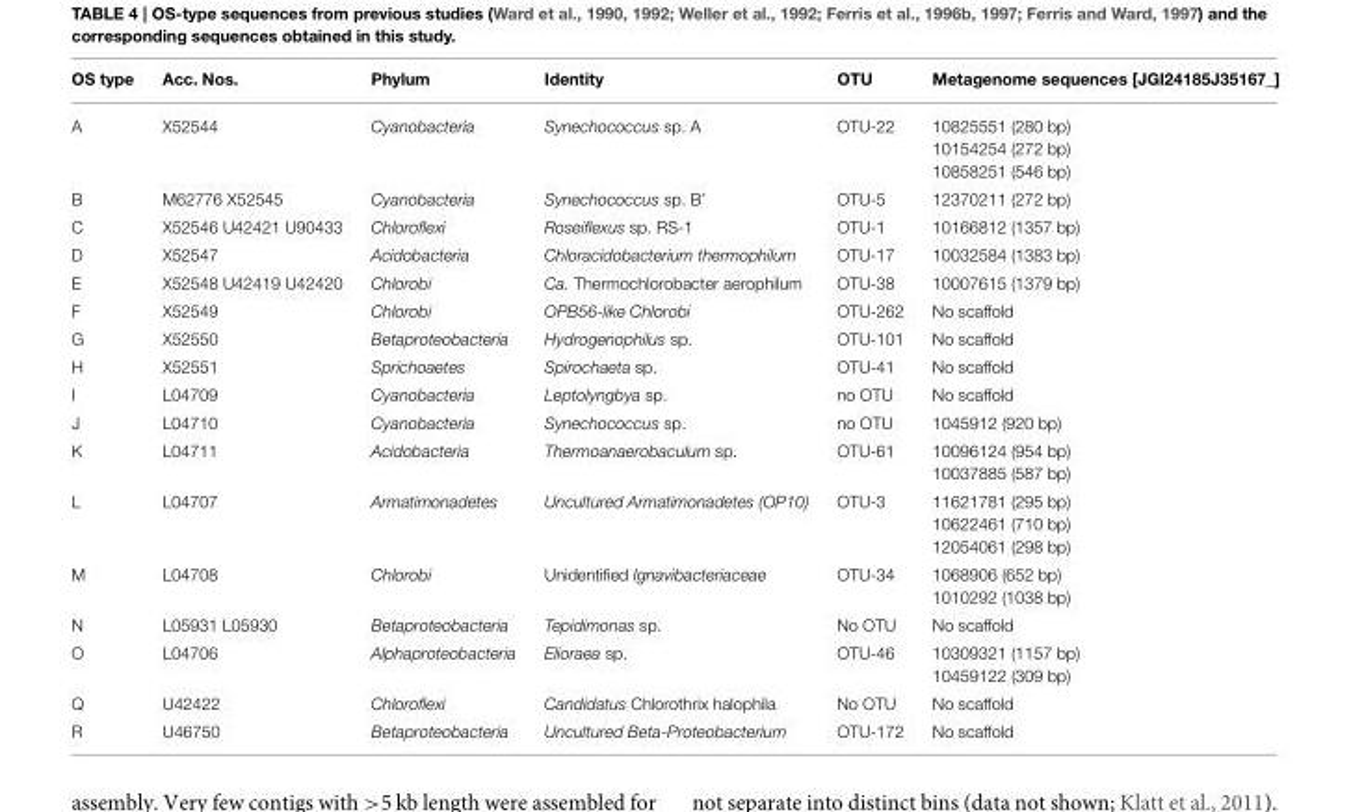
<table><thead><tr><td>OS type</td><td>Acc. Nos.</td><td>Phylum</td><td>Identity</td><td>OTU</td><td>Metagenome sequences [JGI24185J35167_]</td></tr></thead><tbody><tr><td>A</td><td>X52544</td><td>Cyanobacteria</td><td>Synechococcus sp. A</td><td>OTU-22</td><td>10825551 (280 bp) 10154254 (272 bp) 10858251 (546 bp)</td></tr><tr><td>B</td><td>M62776 X52545</td><td>Cyanobacteria</td><td>Synechococcus sp. B’</td><td>OTU-5</td><td>12370211 (272 bp)</td></tr><tr><td>C</td><td>X52546 U42421 U90433</td><td>Chloroflexi</td><td>Roseiflexus sp. RS-1</td><td>OTU-1</td><td>10166812 (1357 bp)</td></tr><tr><td>D</td><td>X52547</td><td>Acidobacteria</td><td>Chloracidobacterium thermophilum</td><td>OTU-17</td><td>10032584 (1383 bp)</td></tr><tr><td>E</td><td>X52548 U42419 U42420</td><td>Chlorobi</td><td>Ca. Thermochlorobacter aerophilum</td><td>OTU-38</td><td>10007615 (1379 bp)</td></tr><tr><td>F</td><td>X52549</td><td>Chlorobi</td><td>OPB56-like Chlorobi</td><td>OTU-262</td><td>No scaffold</td></tr><tr><td>G</td><td>X52550</td><td>Betaproteobacteria</td><td>Hydrogenophilus sp.</td><td>OTU-101</td><td>No scaffold</td></tr><tr><td>H</td><td>X52551</td><td>Sprichoaetes</td><td>Spirochaeta sp.</td><td>OTU-41</td><td>No scaffold</td></tr><tr><td>I</td><td>L04709</td><td>Cyanobacteria</td><td>Leptolyngbya sp.</td><td>no OTU</td><td>No scaffold</td></tr><tr><td>J</td><td>L04710</td><td>Cyanobacteria</td><td>Synechococcus sp.</td><td>no OTU</td><td>1045912 (920 bp)</td></tr><tr><td>K</td><td>L04711</td><td>Acidobacteria</td><td>Thermoanaerobaculum sp.</td><td>OTU-61</td><td>10096124 (954 bp) 10037885 (587 bp)</td></tr><tr><td>L</td><td>L04707</td><td>Armatimonadetes</td><td>Uncultured Armatimonadetes (OP10)</td><td>OTU-3</td><td>11621781 (295 bp) 10622461 (710 bp) 12054061 (298 bp)</td></tr><tr><td>M</td><td>L04708</td><td>Chlorobi</td><td>Unidentified Ignavibacteriaceae</td><td>OTU-34</td><td>1068906 (652 bp) 1010292 (1038 bp)</td></tr><tr><td>N</td><td>L05931 L05930</td><td>Betaproteobacteria</td><td>Tepidimonas sp.</td><td>No OTU</td><td>No scaffold</td></tr><tr><td>O</td><td>L04706</td><td>Alphaproteobacteria</td><td>Elioraea sp.</td><td>OTU-46</td><td>10309321 (1157 bp) 10459122 (309 bp)</td></tr><tr><td>Q</td><td>U42422</td><td>Chloroflexi</td><td>Candidatus Chlorothrix halophila</td><td>No OTU</td><td>No scaffold</td></tr><tr><td>R</td><td>U46750</td><td>Betaproteobacteria</td><td>Uncultured Beta-Proteobacterium</td><td>OTU-172</td><td>No scaffold</td></tr></tbody></table>